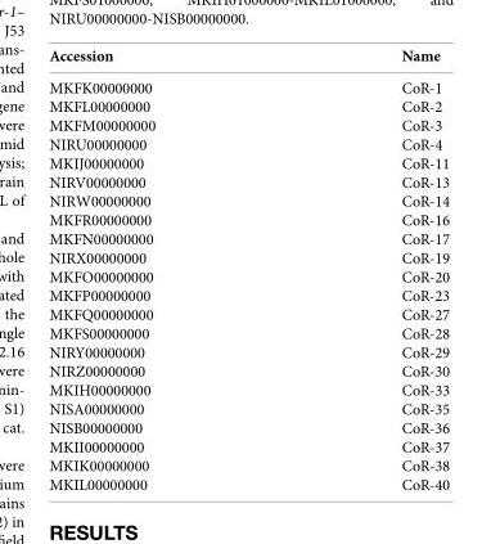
<table><thead><tr><td>Accession</td><td>Name</td></tr></thead><tbody><tr><td>MKFK00000000</td><td>CoR-1</td></tr><tr><td>MKFL00000000</td><td>CoR-2</td></tr><tr><td>MKFM00000000</td><td>CoR-3</td></tr><tr><td>NIRU00000000</td><td>CoR-4</td></tr><tr><td>MKIJ00000000</td><td>CoR-11</td></tr><tr><td>NIRV00000000</td><td>CoR-13</td></tr><tr><td>NIRW00000000</td><td>CoR-14</td></tr><tr><td>MKFR00000000</td><td>CoR-16</td></tr><tr><td>MKFN00000000</td><td>CoR-17</td></tr><tr><td>NIRX00000000</td><td>CoR-19</td></tr><tr><td>MKFO00000000</td><td>CoR-20</td></tr><tr><td>MKFP00000000</td><td>CoR-23</td></tr><tr><td>MKFQ00000000</td><td>CoR-27</td></tr><tr><td>MKFS00000000</td><td>CoR-28</td></tr><tr><td>NIRY00000000</td><td>CoR-29</td></tr><tr><td>NIRZ00000000</td><td>CoR-30</td></tr><tr><td>MKIH00000000</td><td>CoR-33</td></tr><tr><td>NISA00000000</td><td>CoR-35</td></tr><tr><td>NISB00000000</td><td>CoR-36</td></tr><tr><td>MKII00000000</td><td>CoR-37</td></tr><tr><td>MKIK00000000</td><td>CoR-38</td></tr><tr><td>MKIL00000000</td><td>CoR-40</td></tr></tbody></table>